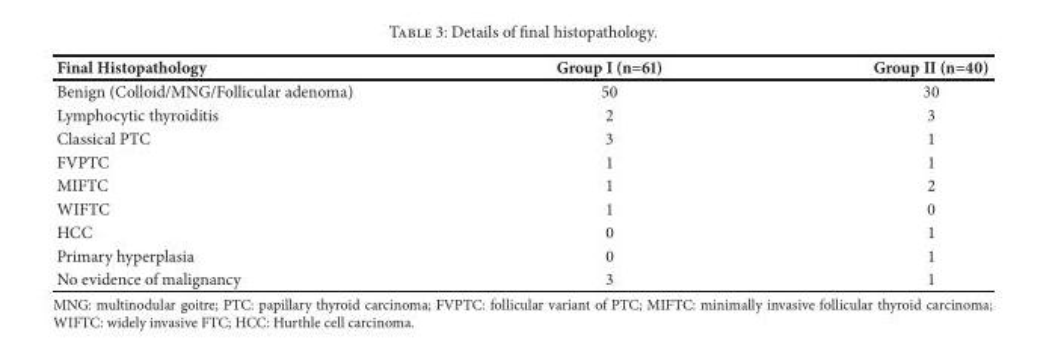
<table><thead><tr><td>Final Histopathology</td><td>Group I (n=61)</td><td>Group II (n=40)</td></tr></thead><tbody><tr><td>Benign (Colloid/MNG/Follicular adenoma)</td><td>50</td><td>30</td></tr><tr><td>Lymphocytic thyroiditis</td><td>2</td><td>3</td></tr><tr><td>Classical PTC</td><td>3</td><td>1</td></tr><tr><td>FVPTC</td><td>1</td><td>1</td></tr><tr><td>MIFTC</td><td>1</td><td>2</td></tr><tr><td>WIFTC</td><td>1</td><td>0</td></tr><tr><td>HCC</td><td>0</td><td>1</td></tr><tr><td>Primary hyperplasia</td><td>0</td><td>1</td></tr><tr><td>No evidence of malignancy</td><td>3</td><td>1</td></tr></tbody></table>